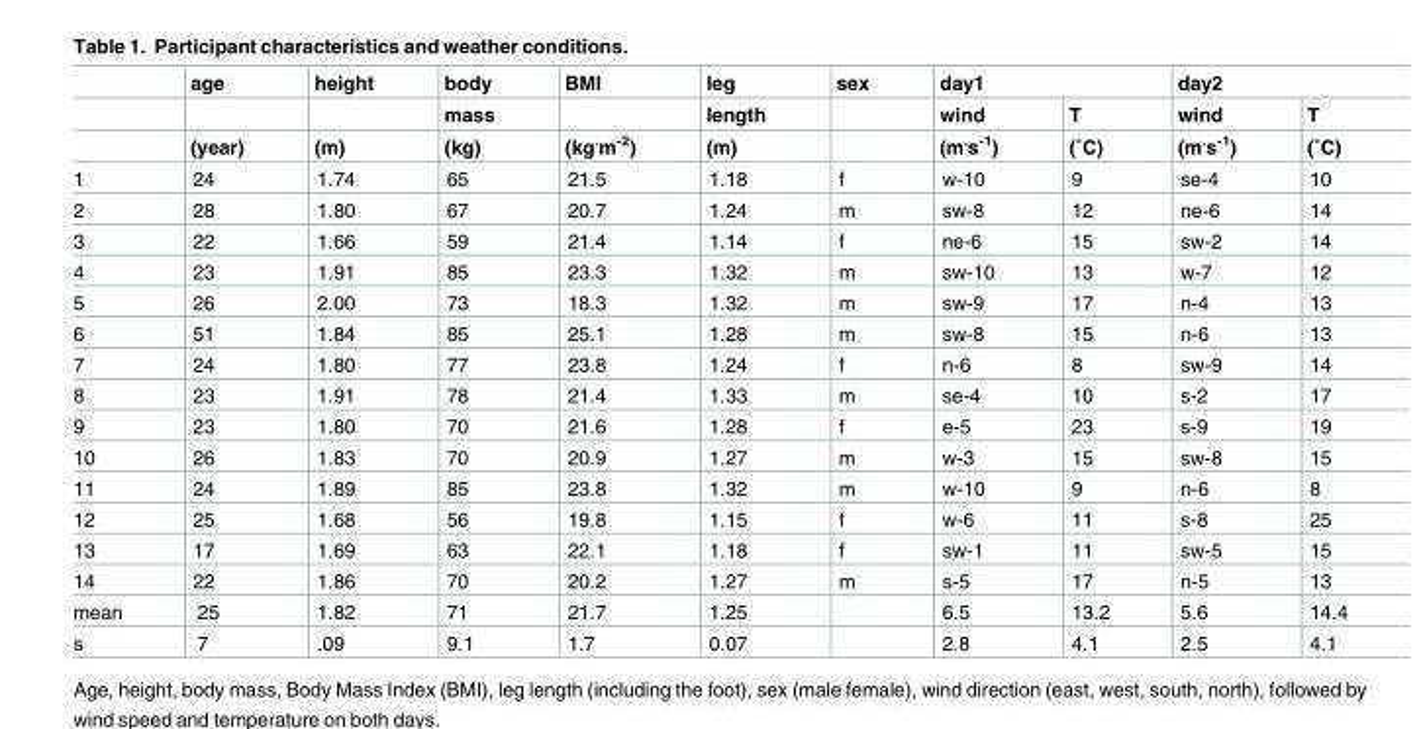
<table><thead><tr><td rowspan="3"></td><td rowspan="3">age (year)</td><td rowspan="3">height (m)</td><td rowspan="3">body mass (kg)</td><td rowspan="3">BMI (kg<sup>.</sup>m<sup>-2</sup>)</td><td rowspan="3">leg length (m)</td><td rowspan="3">sex</td><td colspan="2">day1</td><td colspan="2">day2</td></tr><tr><td rowspan="2">wind (m<sup>.</sup>s<sup>-1</sup>)</td><td rowspan="2">T (˚C)</td><td rowspan="2">wind (m<sup>.</sup>s<sup>-1</sup>)</td><td rowspan="2">T (˚C)</td></tr><tr></tr></thead><tbody><tr><td>1</td><td>24</td><td>1.74</td><td>65</td><td>21.5</td><td>1.18</td><td>f</td><td>w-10</td><td>9</td><td>se-4</td><td>10</td></tr><tr><td>2</td><td>28</td><td>1.80</td><td>67</td><td>20.7</td><td>1.24</td><td>m</td><td>sw-8</td><td>12</td><td>ne-6</td><td>14</td></tr><tr><td>3</td><td>22</td><td>1.66</td><td>59</td><td>21.4</td><td>1.14</td><td>f</td><td>ne-6</td><td>15</td><td>sw-2</td><td>14</td></tr><tr><td>4</td><td>23</td><td>1.91</td><td>85</td><td>23.3</td><td>1.32</td><td>m</td><td>sw-10</td><td>13</td><td>w-7</td><td>12</td></tr><tr><td>5</td><td>26</td><td>2.00</td><td>73</td><td>18.3</td><td>1.32</td><td>m</td><td>sw-9</td><td>17</td><td>n-4</td><td>13</td></tr><tr><td>6</td><td>51</td><td>1.84</td><td>85</td><td>25.1</td><td>1.28</td><td>m</td><td>sw-8</td><td>15</td><td>n-6</td><td>13</td></tr><tr><td>7</td><td>24</td><td>1.80</td><td>77</td><td>23.8</td><td>1.24</td><td>f</td><td>n-6</td><td>8</td><td>sw-9</td><td>14</td></tr><tr><td>8</td><td>23</td><td>1.91</td><td>78</td><td>21.4</td><td>1.33</td><td>m</td><td>se-4</td><td>10</td><td>s-2</td><td>17</td></tr><tr><td>9</td><td>23</td><td>1.80</td><td>70</td><td>21.6</td><td>1.28</td><td>f</td><td>e-5</td><td>23</td><td>s-9</td><td>19</td></tr><tr><td>10</td><td>26</td><td>1.83</td><td>70</td><td>20.9</td><td>1.27</td><td>m</td><td>w-3</td><td>15</td><td>sw-8</td><td>15</td></tr><tr><td>11</td><td>24</td><td>1.89</td><td>85</td><td>23.8</td><td>1.32</td><td>m</td><td>w-10</td><td>9</td><td>n-6</td><td>8</td></tr><tr><td>12</td><td>25</td><td>1.68</td><td>56</td><td>19.8</td><td>1.15</td><td>f</td><td>w-6</td><td>11</td><td>s-8</td><td>25</td></tr><tr><td>13</td><td>17</td><td>1.69</td><td>63</td><td>22.1</td><td>1.18</td><td>f</td><td>sw-1</td><td>11</td><td>sw-5</td><td>15</td></tr><tr><td>14</td><td>22</td><td>1.86</td><td>70</td><td>20.2</td><td>1.27</td><td>m</td><td>s-5</td><td>17</td><td>n-5</td><td>13</td></tr><tr><td>mean</td><td>25</td><td>1.82</td><td>71</td><td>21.7</td><td>1.25</td><td></td><td>6.5</td><td>13.2</td><td>5.6</td><td>14.4</td></tr><tr><td>s</td><td>7</td><td>.09</td><td>9.1</td><td>1.7</td><td>0.07</td><td></td><td>2.8</td><td>4.1</td><td>2.5</td><td>4.1</td></tr></tbody></table>